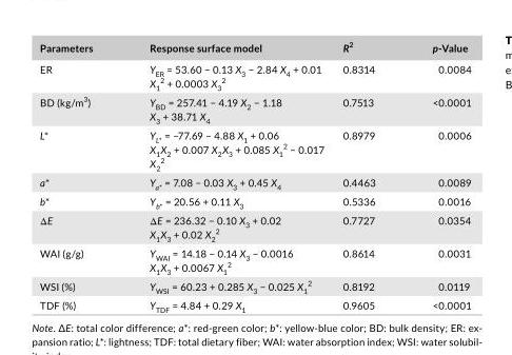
<table><thead><tr><td>Parameters</td><td>Response surface model</td><td>R<sup>2</sup></td><td>p- Value</td></tr></thead><tbody><tr><td>ER</td><td>Y<sub>ER</sub> = 53.60 − 0.13 X<sub>3</sub> − 2.84 X<sub>4</sub> + 0.01 X<sub>1</sub> <sup>2</sup> + 0.0003 X<sub>3</sub> <sup>2</sup></td><td>0.8314</td><td>0.0084</td></tr><tr><td>BD (kg/m<sup>3</sup>)</td><td>Y<sub>BD</sub> = 257.41 − 4.19 X<sub>2</sub> − 1.18 X<sub>3</sub> + 38.71 X<sub>4</sub></td><td>0.7513</td><td>&lt;0.0001</td></tr><tr><td>L*</td><td>Y<sub>L*</sub> = −77.69 − 4.88 X<sub>1</sub> + 0.06 X<sub>1</sub>X<sub>2</sub> + 0.007 X<sub>2</sub>X<sub>3</sub> + 0.085 X<sub>1</sub> <sup>2</sup> − 0.017 X<sub>2</sub> <sup>2</sup></td><td>0.8979</td><td>0.0006</td></tr><tr><td>a*</td><td>Y<sub>a*</sub> = 7.08 − 0.03 X<sub>3</sub> + 0.45 X<sub>4</sub></td><td>0.4463</td><td>0.0089</td></tr><tr><td>b*</td><td>Y<sub>b*</sub> = 20.56 + 0.11 X<sub>3</sub></td><td>0.5336</td><td>0.0016</td></tr><tr><td>ΔE</td><td>ΔE = 236.32 − 0.10 X<sub>3</sub> + 0.02 X<sub>1</sub>X<sub>3</sub> + 0.02 X<sub>2</sub> <sup>2</sup></td><td>0.7727</td><td>0.0354</td></tr><tr><td>WAI (g/g)</td><td>Y<sub>WAI</sub> = 14.18 − 0.14 X<sub>3</sub> − 0.0016 X<sub>1</sub>X<sub>3</sub> + 0.0067 X<sub>1</sub> <sup>2</sup></td><td>0.8614</td><td>0.0031</td></tr><tr><td>WSI (%)</td><td>Y<sub>WSI</sub> = 60.23 + 0.285 X<sub>3</sub> − 0.025 X<sub>1</sub> <sup>2</sup></td><td>0.8192</td><td>0.0119</td></tr><tr><td>TDF (%)</td><td>Y<sub>TDF</sub> = 4.84 + 0.29 X<sub>1</sub></td><td>0.9605</td><td>&lt;0.0001</td></tr></tbody></table>